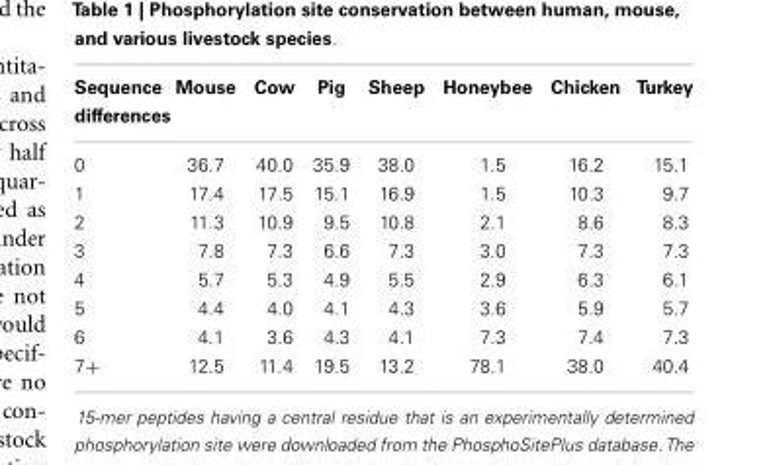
<table><thead><tr><td>Sequence differences</td><td>Mouse</td><td>Cow</td><td>Pig</td><td>Sheep</td><td>Honeybee</td><td>Chicken</td><td>Turkey</td></tr></thead><tbody><tr><td>0</td><td>36.7</td><td>40.0</td><td>35.9</td><td>38.0</td><td>1.5</td><td>16.2</td><td>15.1</td></tr><tr><td>1</td><td>17.4</td><td>17.5</td><td>15.1</td><td>16.9</td><td>1.5</td><td>10.3</td><td>9.7</td></tr><tr><td>2</td><td>11.3</td><td>10.9</td><td>9.5</td><td>10.8</td><td>2.1</td><td>8.6</td><td>8.3</td></tr><tr><td>3</td><td>7.8</td><td>7.3</td><td>6.6</td><td>7.3</td><td>3.0</td><td>7.3</td><td>7.3</td></tr><tr><td>4</td><td>5.7</td><td>5.3</td><td>4.9</td><td>5.5</td><td>2.9</td><td>6.3</td><td>6.1</td></tr><tr><td>5</td><td>4.4</td><td>4.0</td><td>4.1</td><td>4.3</td><td>3.6</td><td>5.9</td><td>5.7</td></tr><tr><td>6</td><td>4.1</td><td>3.6</td><td>4.3</td><td>4.1</td><td>7.3</td><td>7.4</td><td>7.3</td></tr><tr><td>7+</td><td>12.5</td><td>11.4</td><td>19.5</td><td>13.2</td><td>78.1</td><td>38.0</td><td>40.4</td></tr></tbody></table>